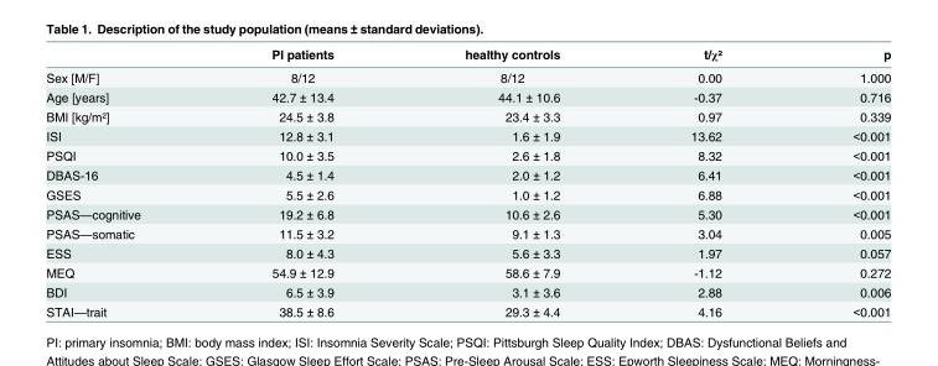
<table><thead><tr><td></td><td>PI patients</td><td>healthy controls</td><td>t/χ²</td><td>p</td></tr></thead><tbody><tr><td>Sex [M/F]</td><td>8/12</td><td>8/12</td><td>0.00</td><td>1.000</td></tr><tr><td>Age [years]</td><td>42.7 ± 13.4</td><td>44.1 ± 10.6</td><td>-0.37</td><td>0.716</td></tr><tr><td>BMI [kg/m²]</td><td>24.5 ± 3.8</td><td>23.4 ± 3.3</td><td>0.97</td><td>0.339</td></tr><tr><td>ISI</td><td>12.8 ± 3.1</td><td>1.6 ± 1.9</td><td>13.62</td><td>&lt;0.001</td></tr><tr><td>PSQI</td><td>10.0 ± 3.5</td><td>2.6 ± 1.8</td><td>8.32</td><td>&lt;0.001</td></tr><tr><td>DBAS-16</td><td>4.5 ± 1.4</td><td>2.0 ± 1.2</td><td>6.41</td><td>&lt;0.001</td></tr><tr><td>GSES</td><td>5.5 ± 2.6</td><td>1.0 ± 1.2</td><td>6.88</td><td>&lt;0.001</td></tr><tr><td>PSAS—cognitive</td><td>19.2 ± 6.8</td><td>10.6 ± 2.6</td><td>5.30</td><td>&lt;0.001</td></tr><tr><td>PSAS—somatic</td><td>11.5 ± 3.2</td><td>9.1 ± 1.3</td><td>3.04</td><td>0.005</td></tr><tr><td>ESS</td><td>8.0 ± 4.3</td><td>5.6 ± 3.3</td><td>1.97</td><td>0.057</td></tr><tr><td>MEQ</td><td>54.9 ± 12.9</td><td>58.6 ± 7.9</td><td>-1.12</td><td>0.272</td></tr><tr><td>BDI</td><td>6.5 ± 3.9</td><td>3.1 ± 3.6</td><td>2.88</td><td>0.006</td></tr><tr><td>STAI—trait</td><td>38.5 ± 8.6</td><td>29.3 ± 4.4</td><td>4.16</td><td>&lt;0.001</td></tr></tbody></table>